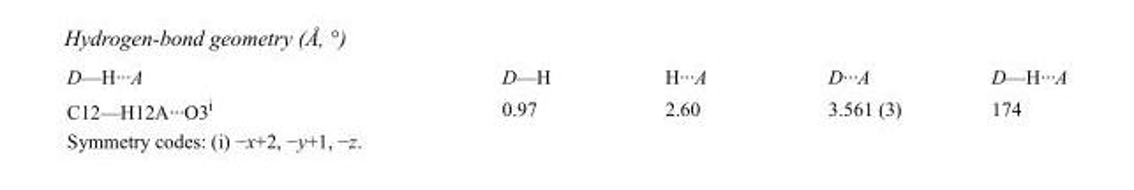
<table><tbody><tr><td>D—H···A</td><td>D—H</td><td>H···A</td><td>D···A</td><td>D—H···A</td></tr><tr><td>C12—H12A···O3<sup>i</sup></td><td>0.97</td><td>2.60</td><td>3.561 (3)</td><td>174</td></tr></tbody></table>